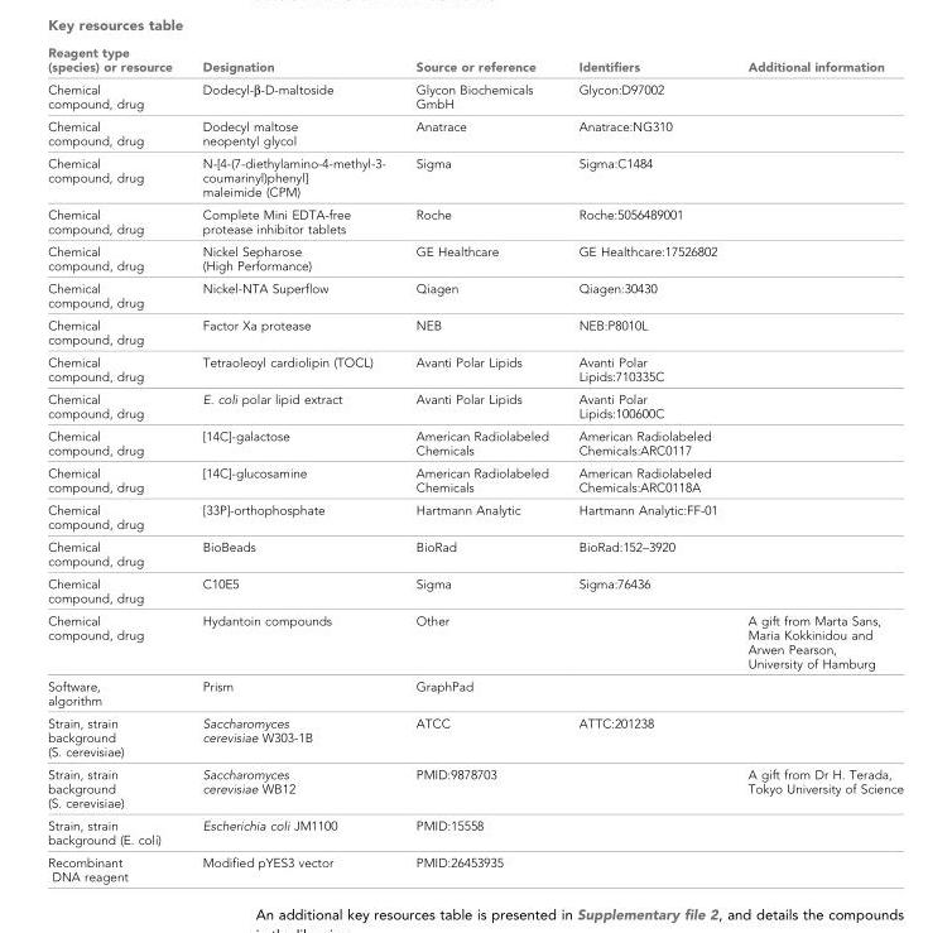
<table><thead><tr><td>Reagent type (species) or resource</td><td>Designation</td><td>Source or reference</td><td>Identifiers</td><td>Additional information</td></tr></thead><tbody><tr><td>Chemical compound, drug</td><td>Dodecyl-β-D-maltoside</td><td>Glycon Biochemicals GmbH</td><td>Glycon:D97002</td><td></td></tr><tr><td>Chemical compound, drug</td><td>Dodecyl maltose neopentyl glycol</td><td>Anatrace</td><td>Anatrace:NG310</td><td></td></tr><tr><td>Chemical compound, drug</td><td>N-[4-(7-diethylamino-4-methyl-3- coumarinyl)phenyl] maleimide (CPM)</td><td>Sigma</td><td>Sigma:C1484</td><td></td></tr><tr><td>Chemical compound, drug</td><td>Complete Mini EDTA-free protease inhibitor tablets</td><td>Roche</td><td>Roche:5056489001</td><td></td></tr><tr><td>Chemical compound, drug</td><td>Nickel Sepharose (High Performance)</td><td>GE Healthcare</td><td>GE Healthcare:17526802</td><td></td></tr><tr><td>Chemical compound, drug</td><td>Nickel-NTA Superflow</td><td>Qiagen</td><td>Qiagen:30430</td><td></td></tr><tr><td>Chemical compound, drug</td><td>Factor Xa protease</td><td>NEB</td><td>NEB:P8010L</td><td></td></tr><tr><td>Chemical compound, drug</td><td>Tetraoleoyl cardiolipin (TOCL)</td><td>Avanti Polar Lipids</td><td>Avanti Polar Lipids:710335C</td><td></td></tr><tr><td>Chemical compound, drug</td><td>E. coli polar lipid extract</td><td>Avanti Polar Lipids</td><td>Avanti Polar Lipids:100600C</td><td></td></tr><tr><td>Chemical compound, drug</td><td>[14C]-galactose</td><td>American Radiolabeled Chemicals</td><td>American Radiolabeled Chemicals:ARC0117</td><td></td></tr><tr><td>Chemical compound, drug</td><td>[14C]-glucosamine</td><td>American Radiolabeled Chemicals</td><td>American Radiolabeled Chemicals:ARC0118A</td><td></td></tr><tr><td>Chemical compound, drug</td><td>[33P]-orthophosphate</td><td>Hartmann Analytic</td><td>Hartmann Analytic:FF-01</td><td></td></tr><tr><td>Chemical compound, drug</td><td>BioBeads</td><td>BioRad</td><td>BioRad:152–3920</td><td></td></tr><tr><td>Chemical compound, drug</td><td>C10E5</td><td>Sigma</td><td>Sigma:76436</td><td></td></tr><tr><td>Chemical compound, drug</td><td>Hydantoin compounds</td><td>Other</td><td></td><td>A gift from Marta Sans, Maria Kokkinidou and Arwen Pearson, University of Hamburg</td></tr><tr><td>Software, algorithm</td><td>Prism</td><td>GraphPad</td><td></td><td></td></tr><tr><td>Strain, strain background (S. cerevisiae)</td><td>Saccharomyces cerevisiae W303-1B</td><td>ATCC</td><td>ATTC:201238</td><td></td></tr><tr><td>Strain, strain background (S. cerevisiae)</td><td>Saccharomyces cerevisiae WB12</td><td>PMID:9878703</td><td></td><td>A gift from Dr H. Terada, Tokyo University of Science</td></tr><tr><td>Strain, strain background (E. coli)</td><td>Escherichia coli JM1100</td><td>PMID:15558</td><td></td><td></td></tr><tr><td>Recombinant DNA reagent</td><td>Modified pYES3 vector</td><td>PMID:26453935</td><td></td><td></td></tr></tbody></table>